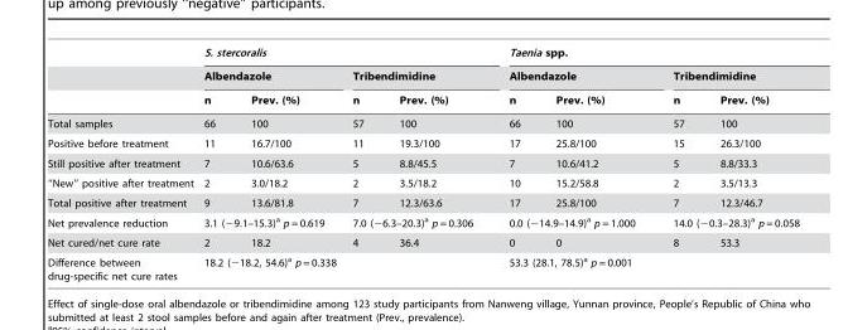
<table><thead><tr><td rowspan="3"></td><td colspan="4">S. stercoralis</td><td colspan="4">Taenia spp.</td></tr><tr><td colspan="2">Albendazole</td><td colspan="2">Tribendimidine</td><td colspan="2">Albendazole</td><td colspan="2">Tribendimidine</td></tr><tr><td>n</td><td>Prev. (%)</td><td>n</td><td>Prev. (%)</td><td>n</td><td>Prev. (%)</td><td>n</td><td>Prev. (%)</td></tr></thead><tbody><tr><td>Total samples</td><td>66</td><td>100</td><td>57</td><td>100</td><td>66</td><td>100</td><td>57</td><td>100</td></tr><tr><td>Positive before treatment</td><td>11</td><td>16.7/100</td><td>11</td><td>19.3/100</td><td>17</td><td>25.8/100</td><td>15</td><td>26.3/100</td></tr><tr><td>Still positive after treatment</td><td>7</td><td>10.6/63.6</td><td>5</td><td>8.8/45.5</td><td>7</td><td>10.6/41.2</td><td>5</td><td>8.8/33.3</td></tr><tr><td>‘‘New’’ positive after treatment</td><td>2</td><td>3.0/18.2</td><td>2</td><td>3.5/18.2</td><td>10</td><td>15.2/58.8</td><td>2</td><td>3.5/13.3</td></tr><tr><td>Total positive after treatment</td><td>9</td><td>13.6/81.8</td><td>7</td><td>12.3/63.6</td><td>17</td><td>25.8/100</td><td>7</td><td>12.3/46.7</td></tr><tr><td>Net prevalence reduction</td><td colspan="2">3.1 (−9.1–15.3)<sup>a</sup> p = 0.619</td><td colspan="2">7.0 (−6.3–20.3)<sup>a</sup> p = 0.306</td><td colspan="2">0.0 (−14.9–14.9)<sup>a</sup> p = 1.000</td><td colspan="2">14.0 (−0.3–28.3)<sup>a</sup> p = 0.058</td></tr><tr><td>Net cured/net cure rate</td><td>2</td><td>18.2</td><td>4</td><td>36.4</td><td>0</td><td>0</td><td>8</td><td>53.3</td></tr><tr><td>Difference between drug-specific net cure rates</td><td colspan="4">18.2 (−18.2, 54.6)<sup>a</sup> p = 0.338</td><td colspan="4">53.3 (28.1, 78.5)<sup>a</sup> p = 0.001</td></tr></tbody></table>